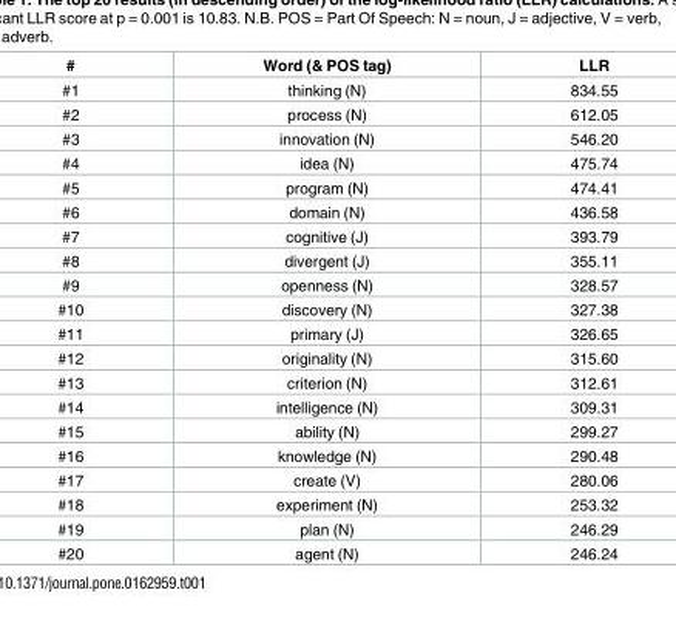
<table><thead><tr><td>#</td><td>Word (&amp; POS tag)</td><td>LLR</td></tr></thead><tbody><tr><td>#1</td><td>thinking (N)</td><td>834.55</td></tr><tr><td>#2</td><td>process (N)</td><td>612.05</td></tr><tr><td>#3</td><td>innovation (N)</td><td>546.20</td></tr><tr><td>#4</td><td>idea (N)</td><td>475.74</td></tr><tr><td>#5</td><td>program (N)</td><td>474.41</td></tr><tr><td>#6</td><td>domain (N)</td><td>436.58</td></tr><tr><td>#7</td><td>cognitive (J)</td><td>393.79</td></tr><tr><td>#8</td><td>divergent (J)</td><td>355.11</td></tr><tr><td>#9</td><td>openness (N)</td><td>328.57</td></tr><tr><td>#10</td><td>discovery (N)</td><td>327.38</td></tr><tr><td>#11</td><td>primary (J)</td><td>326.65</td></tr><tr><td>#12</td><td>originality (N)</td><td>315.60</td></tr><tr><td>#13</td><td>criterion (N)</td><td>312.61</td></tr><tr><td>#14</td><td>intelligence (N)</td><td>309.31</td></tr><tr><td>#15</td><td>ability (N)</td><td>299.27</td></tr><tr><td>#16</td><td>knowledge (N)</td><td>290.48</td></tr><tr><td>#17</td><td>create (V)</td><td>280.06</td></tr><tr><td>#18</td><td>experiment (N)</td><td>253.32</td></tr><tr><td>#19</td><td>plan (N)</td><td>246.29</td></tr><tr><td>#20</td><td>agent (N)</td><td>246.24</td></tr></tbody></table>